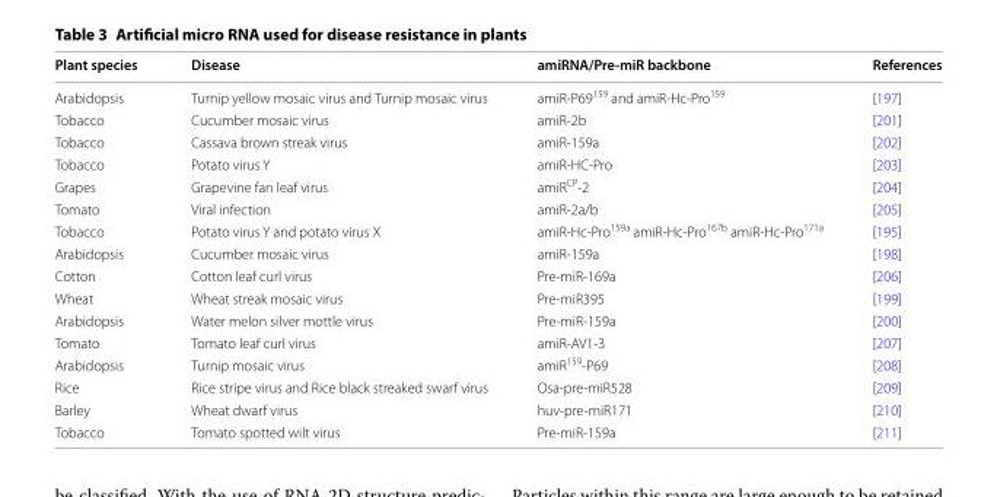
<table><thead><tr><td>Plant species</td><td>Disease</td><td>amiRNA/Pre‑miR backbone</td><td>References</td></tr></thead><tbody><tr><td>Arabidopsis</td><td>Turnip yellow mosaic virus and Turnip mosaic virus</td><td>amiR-P69<sup>159</sup> and amiR-Hc-Pro<sup>159</sup></td><td>[197]</td></tr><tr><td>Tobacco</td><td>Cucumber mosaic virus</td><td>amiR-2b</td><td>[201]</td></tr><tr><td>Tobacco</td><td>Cassava brown streak virus</td><td>amiR-159a</td><td>[202]</td></tr><tr><td>Tobacco</td><td>Potato virus Y</td><td>amiR-HC-Pro</td><td>[203]</td></tr><tr><td>Grapes</td><td>Grapevine fan leaf virus</td><td>amiR<sup>CP</sup>-2</td><td>[204]</td></tr><tr><td>Tomato</td><td>Viral infection</td><td>amiR-2a/b</td><td>[205]</td></tr><tr><td>Tobacco</td><td>Potato virus Y and potato virus X</td><td>amiR-Hc-Pro<sup>159a</sup> amiR-Hc-Pro<sup>167b</sup> amiR-Hc-Pro<sup>171a</sup></td><td>[195]</td></tr><tr><td>Arabidopsis</td><td>Cucumber mosaic virus</td><td>amiR-159a</td><td>[198]</td></tr><tr><td>Cotton</td><td>Cotton leaf curl virus</td><td>Pre-miR-169a</td><td>[206]</td></tr><tr><td>Wheat</td><td>Wheat streak mosaic virus</td><td>Pre-miR395</td><td>[199]</td></tr><tr><td>Arabidopsis</td><td>Water melon silver mottle virus</td><td>Pre-miR-159a</td><td>[200]</td></tr><tr><td>Tomato</td><td>Tomato leaf curl virus</td><td>amiR-AV1-3</td><td>[207]</td></tr><tr><td>Arabidopsis</td><td>Turnip mosaic virus</td><td>amiR<sup>159</sup>-P69</td><td>[208]</td></tr><tr><td>Rice</td><td>Rice stripe virus and Rice black streaked swarf virus</td><td>Osa-pre-miR528</td><td>[209]</td></tr><tr><td>Barley</td><td>Wheat dwarf virus</td><td>huv-pre-miR171</td><td>[210]</td></tr><tr><td>Tobacco</td><td>Tomato spotted wilt virus</td><td>Pre-miR-159a</td><td>[211]</td></tr></tbody></table>